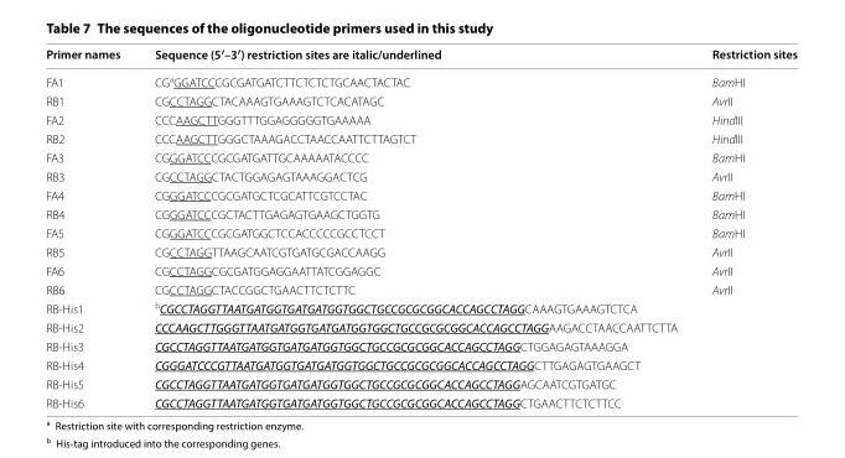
<table><thead><tr><td>Primer names</td><td>Sequence (5′–3′) restriction sites are italic/underlined</td><td>Restriction sites</td></tr></thead><tbody><tr><td>FA1</td><td>CG<sup>a</sup>GGATCCCGCGATGATCTTCTCTCTGCAACTACTAC</td><td>BamHI</td></tr><tr><td>RB1</td><td>CGCCTAGGCTACAAAGTGAAAGTCTCACATAGC</td><td>AvrII</td></tr><tr><td>FA2</td><td>CCCAAGCTTGGGTTTGGAGGGGGTGAAAAA</td><td>HindIII</td></tr><tr><td>RB2</td><td>CCCAAGCTTGGGCTAAAGACCTAACCAATTCTTAGTCT</td><td>HindIII</td></tr><tr><td>FA3</td><td>CGGGATCCCGCGATGATTGCAAAAATACCCC</td><td>BamHI</td></tr><tr><td>RB3</td><td>CGCCTAGGCTACTGGAGAGTAAAGGACTCG</td><td>AvrII</td></tr><tr><td>FA4</td><td>CGGGATCCCGCGATGCTCGCATTCGTCCTAC</td><td>BamHI</td></tr><tr><td>RB4</td><td>CGGGATCCCGCTACTTGAGAGTGAAGCTGGTG</td><td>BamHI</td></tr><tr><td>FA5</td><td>CGGGATCCCGCGATGGCTCCACCCCCGCCTCCT</td><td>BamHI</td></tr><tr><td>RB5</td><td>CGCCTAGGTTAAGCAATCGTGATGCGACCAAGG</td><td>AvrII</td></tr><tr><td>FA6</td><td>CGCCTAGGCGCGATGGAGGAATTATCGGAGGC</td><td>AvrII</td></tr><tr><td>RB6</td><td>CGCCTAGGCTACCGGCTGAACTTCTCTTC</td><td>AvrII</td></tr><tr><td>RB‑His1</td><td><sup>b</sup>CGCCTAGGTTAATGATGGTGATGATGGTGGCTGCCGCGCGGCACCAGCCTAGGCAAAGTGAAAGTCTCA</td><td></td></tr><tr><td>RB‑His2</td><td>CCCAAGCTTGGGTTAATGATGGTGATGATGGTGGCTGCCGCGCGGCACCAGCCTAGGAAGACCTAACCAATTCTTA</td><td></td></tr><tr><td>RB‑His3</td><td>CGCCTAGGTTAATGATGGTGATGATGGTGGCTGCCGCGCGGCACCAGCCTAGGCTGGAGAGTAAAGGA</td><td></td></tr><tr><td>RB‑His4</td><td>CGGGATCCCGTTAATGATGGTGATGATGGTGGCTGCCGCGCGGCACCAGCCTAGGCTTGAGAGTGAAGCT</td><td></td></tr><tr><td>RB‑His5</td><td>CGCCTAGGTTAATGATGGTGATGATGGTGGCTGCCGCGCGGCACCAGCCTAGGAGCAATCGTGATGC</td><td></td></tr><tr><td>RB‑His6</td><td>CGCCTAGGTTAATGATGGTGATGATGGTGGCTGCCGCGCGGCACCAGCCTAGGCTGAACTTCTCTTCC</td><td></td></tr></tbody></table>